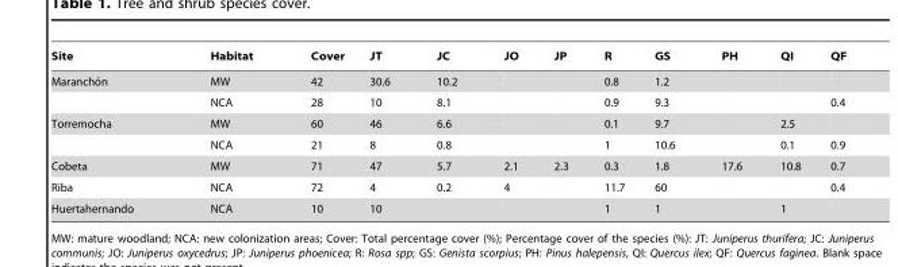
<table><thead><tr><td>Site</td><td>Habitat</td><td>Cover</td><td>JT</td><td>JC</td><td>JO</td><td>JP</td><td>R</td><td>GS</td><td>PH</td><td>QI</td><td>QF</td></tr></thead><tbody><tr><td rowspan="2">Marancho´n</td><td>MW</td><td>42</td><td>30.6</td><td>10.2</td><td></td><td></td><td>0.8</td><td>1.2</td><td></td><td></td><td></td></tr><tr><td>NCA</td><td>28</td><td>10</td><td>8.1</td><td></td><td></td><td>0.9</td><td>9.3</td><td></td><td></td><td>0.4</td></tr><tr><td rowspan="2">Torremocha</td><td>MW</td><td>60</td><td>46</td><td>6.6</td><td></td><td></td><td>0.1</td><td>9.7</td><td></td><td>2.5</td><td></td></tr><tr><td>NCA</td><td>21</td><td>8</td><td>0.8</td><td></td><td></td><td>1</td><td>10.6</td><td></td><td>0.1</td><td>0.9</td></tr><tr><td>Cobeta</td><td>MW</td><td>71</td><td>47</td><td>5.7</td><td>2.1</td><td>2.3</td><td>0.3</td><td>1.8</td><td>17.6</td><td>10.8</td><td>0.7</td></tr><tr><td>Riba</td><td>NCA</td><td>72</td><td>4</td><td>0.2</td><td>4</td><td></td><td>11.7</td><td>60</td><td></td><td></td><td>0.4</td></tr><tr><td>Huertahernando</td><td>NCA</td><td>10</td><td>10</td><td></td><td></td><td></td><td>1</td><td>1</td><td></td><td>1</td><td></td></tr></tbody></table>